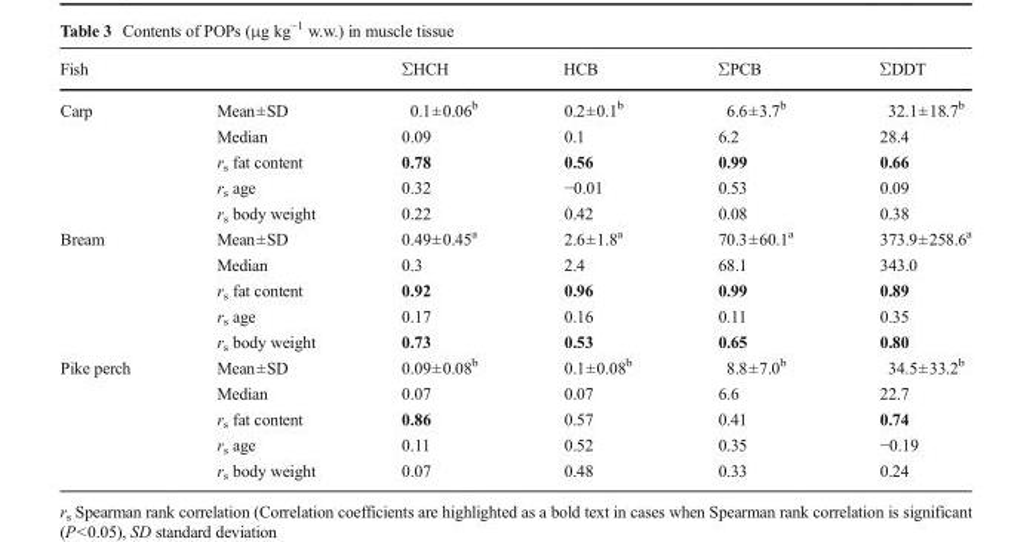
<table><thead><tr><td>Fish</td><td></td><td>ΣHCH</td><td>HCB</td><td>ΣPCB</td><td>ΣDDT</td></tr></thead><tbody><tr><td rowspan="5">Carp</td><td>Mean±SD</td><td>0.1±0.06<sup>b</sup></td><td>0.2±0.1<sup>b</sup></td><td>6.6±3.7<sup>b</sup></td><td>32.1±18.7<sup>b</sup></td></tr><tr><td>Median</td><td>0.09</td><td>0.1</td><td>6.2</td><td>28.4</td></tr><tr><td>r<sub>s</sub> fat content</td><td>0.78</td><td>0.56</td><td>0.99</td><td>0.66</td></tr><tr><td>r<sub>s</sub> age</td><td>0.32</td><td>−0.01</td><td>0.53</td><td>0.09</td></tr><tr><td>r<sub>s</sub> body weight</td><td>0.22</td><td>0.42</td><td>0.08</td><td>0.38</td></tr><tr><td rowspan="5">Bream</td><td>Mean±SD</td><td>0.49±0.45<sup>a</sup></td><td>2.6±1.8<sup>a</sup></td><td>70.3±60.1<sup>a</sup></td><td>373.9±258.6<sup>a</sup></td></tr><tr><td>Median</td><td>0.3</td><td>2.4</td><td>68.1</td><td>343.0</td></tr><tr><td>r<sub>s</sub> fat content</td><td>0.92</td><td>0.96</td><td>0.99</td><td>0.89</td></tr><tr><td>r<sub>s</sub> age</td><td>0.17</td><td>0.16</td><td>0.11</td><td>0.35</td></tr><tr><td>r<sub>s</sub> body weight</td><td>0.73</td><td>0.53</td><td>0.65</td><td>0.80</td></tr><tr><td rowspan="5">Pike perch</td><td>Mean±SD</td><td>0.09±0.08<sup>b</sup></td><td>0.1±0.08<sup>b</sup></td><td>8.8±7.0<sup>b</sup></td><td>34.5±33.2<sup>b</sup></td></tr><tr><td>Median</td><td>0.07</td><td>0.07</td><td>6.6</td><td>22.7</td></tr><tr><td>r<sub>s</sub> fat content</td><td>0.86</td><td>0.57</td><td>0.41</td><td>0.74</td></tr><tr><td>r<sub>s</sub> age</td><td>0.11</td><td>0.52</td><td>0.35</td><td>−0.19</td></tr><tr><td>r<sub>s</sub> body weight</td><td>0.07</td><td>0.48</td><td>0.33</td><td>0.24</td></tr></tbody></table>